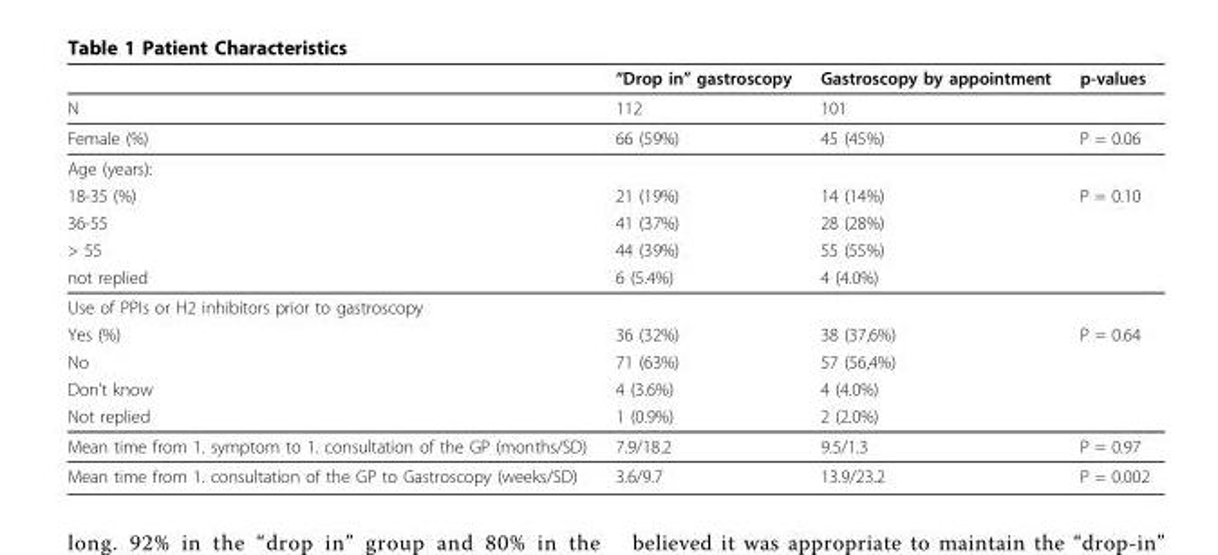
<table><thead><tr><td></td><td>“Drop in” gastroscopy</td><td>Gastroscopy by appointment</td><td>p-values</td></tr></thead><tbody><tr><td>N</td><td>112</td><td>101</td><td></td></tr><tr><td>Female (%)</td><td>66 (59%)</td><td>45 (45%)</td><td>P = 0.06</td></tr><tr><td colspan="4">Age (years):</td></tr><tr><td>18-35 (%)</td><td>21 (19%)</td><td>14 (14%)</td><td>P = 0.10</td></tr><tr><td>36-55</td><td>41 (37%)</td><td>28 (28%)</td><td></td></tr><tr><td>&gt; 55</td><td>44 (39%)</td><td>55 (55%)</td><td></td></tr><tr><td>not replied</td><td>6 (5.4%)</td><td>4 (4.0%)</td><td></td></tr><tr><td colspan="4">Use of PPIs or H2 inhibitors prior to gastroscopy</td></tr><tr><td>Yes (%)</td><td>36 (32%)</td><td>38 (37,6%)</td><td>P = 0.64</td></tr><tr><td>No</td><td>71 (63%)</td><td>57 (56,4%)</td><td></td></tr><tr><td>Don’t know</td><td>4 (3.6%)</td><td>4 (4.0%)</td><td></td></tr><tr><td>Not replied</td><td>1 (0.9%)</td><td>2 (2.0%)</td><td></td></tr><tr><td>Mean time from 1. symptom to 1. consultation of the GP (months/SD)</td><td>7.9/18.2</td><td>9.5/1.3</td><td>P = 0.97</td></tr><tr><td>Mean time from 1. consultation of the GP to Gastroscopy (weeks/SD)</td><td>3.6/9.7</td><td>13.9/23.2</td><td>P = 0.002</td></tr></tbody></table>